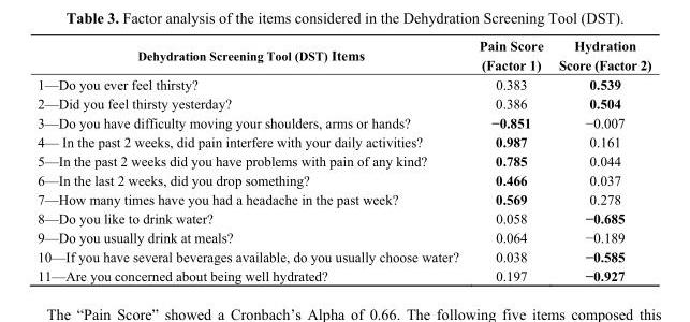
<table><thead><tr><td>Dehydration Screening Tool (DST) Items</td><td>Pain Score (Factor 1)</td><td>Hydration Score (Factor 2)</td></tr></thead><tbody><tr><td>1—Do you ever feel thirsty?</td><td>0.383</td><td>0.539</td></tr><tr><td>2—Did you feel thirsty yesterday?</td><td>0.386</td><td>0.504</td></tr><tr><td>3—Do you have difficulty moving your shoulders, arms or hands?</td><td>−0.851</td><td>−0.007</td></tr><tr><td>4— In the past 2 weeks, did pain interfere with your daily activities?</td><td>0.987</td><td>0.161</td></tr><tr><td>5—In the past 2 weeks did you have problems with pain of any kind?</td><td>0.785</td><td>0.044</td></tr><tr><td>6—In the last 2 weeks, did you drop something?</td><td>0.466</td><td>0.037</td></tr><tr><td>7—How many times have you had a headache in the past week?</td><td>0.569</td><td>0.278</td></tr><tr><td>8—Do you like to drink water?</td><td>0.058</td><td>−0.685</td></tr><tr><td>9—Do you usually drink at meals?</td><td>0.064</td><td>−0.189</td></tr><tr><td>10—If you have several beverages available, do you usually choose water?</td><td>0.038</td><td>−0.585</td></tr><tr><td>11—Are you concerned about being well hydrated?</td><td>0.197</td><td>−0.927</td></tr></tbody></table>